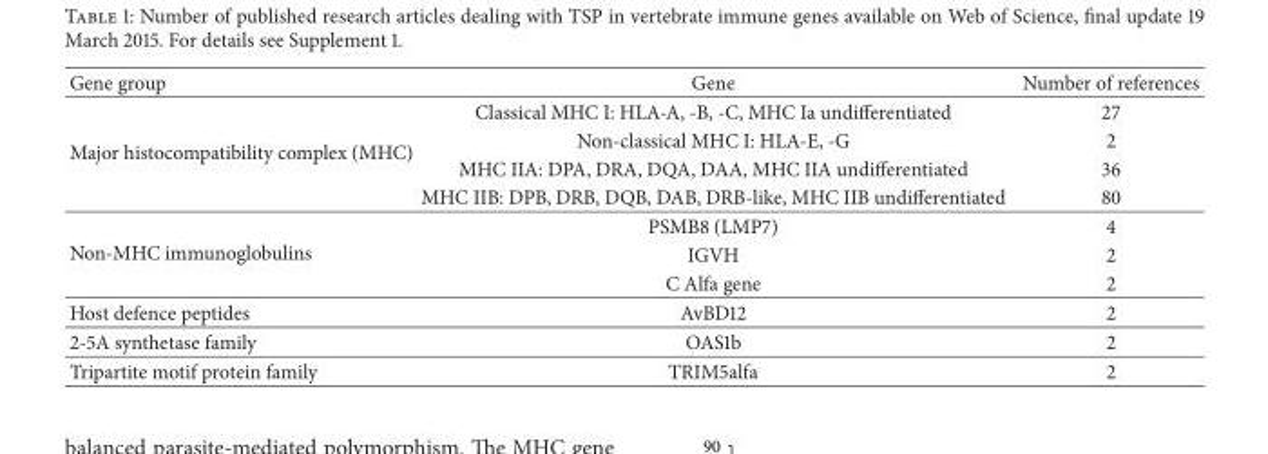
<table><thead><tr><td>Gene group</td><td>Gene</td><td>Number of references</td></tr></thead><tbody><tr><td rowspan="4">Major histocompatibility complex (MHC)</td><td>Classical MHC I: HLA-A, -B, -C, MHC Ia undifferentiated</td><td>27</td></tr><tr><td>Non-classical MHC I: HLA-E, -G</td><td>2</td></tr><tr><td>MHC IIA: DPA, DRA, DQA, DAA, MHC IIA undifferentiated</td><td>36</td></tr><tr><td>MHC IIB: DPB, DRB, DQB, DAB, DRB-like, MHC IIB undifferentiated</td><td>80</td></tr><tr><td rowspan="3">Non-MHC immunoglobulins</td><td>PSMB8 (LMP7)</td><td>4</td></tr><tr><td>IGVH</td><td>2</td></tr><tr><td>C Alfa gene</td><td>2</td></tr><tr><td>Host defence peptides</td><td>AvBD12</td><td>2</td></tr><tr><td>2-5A synthetase family</td><td>OAS1b</td><td>2</td></tr><tr><td>Tripartite motif protein family</td><td>TRIM5alfa</td><td>2</td></tr></tbody></table>